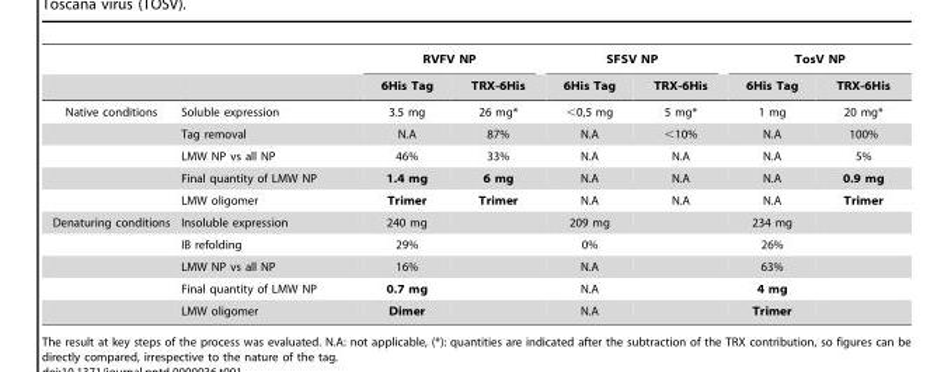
<table><thead><tr><td rowspan="2"></td><td rowspan="2"></td><td colspan="2">RVFV NP</td><td colspan="2">SFSV NP</td><td colspan="2">TosV NP</td></tr><tr><td>6His Tag</td><td>TRX-6His</td><td>6His Tag</td><td>TRX-6His</td><td>6His Tag</td><td>TRX-6His</td></tr></thead><tbody><tr><td rowspan="5">Native conditions</td><td>Soluble expression</td><td>3.5 mg</td><td>26 mg*</td><td>&lt;0,5 mg</td><td>5 mg*</td><td>1 mg</td><td>20 mg*</td></tr><tr><td>Tag removal</td><td>N.A</td><td>87%</td><td>N.A</td><td>&lt;10%</td><td>N.A</td><td>100%</td></tr><tr><td>LMW NP vs all NP</td><td>46%</td><td>33%</td><td>N.A</td><td>N.A</td><td>N.A</td><td>5%</td></tr><tr><td>Final quantity of LMW NP</td><td>1.4 mg</td><td>6 mg</td><td>N.A</td><td>N.A</td><td>N.A</td><td>0.9 mg</td></tr><tr><td>LMW oligomer</td><td>Trimer</td><td>Trimer</td><td>N.A</td><td>N.A</td><td>N.A</td><td>Trimer</td></tr><tr><td rowspan="5">Denaturing conditions</td><td>Insoluble expression</td><td>240 mg</td><td></td><td>209 mg</td><td></td><td>234 mg</td><td></td></tr><tr><td>IB refolding</td><td>29%</td><td></td><td>0%</td><td></td><td>26%</td><td></td></tr><tr><td>LMW NP vs all NP</td><td>16%</td><td></td><td>N.A</td><td></td><td>63%</td><td></td></tr><tr><td>Final quantity of LMW NP</td><td>0.7 mg</td><td></td><td>N.A</td><td></td><td>4 mg</td><td></td></tr><tr><td>LMW oligomer</td><td>Dimer</td><td></td><td>N.A</td><td></td><td>Trimer</td><td></td></tr></tbody></table>